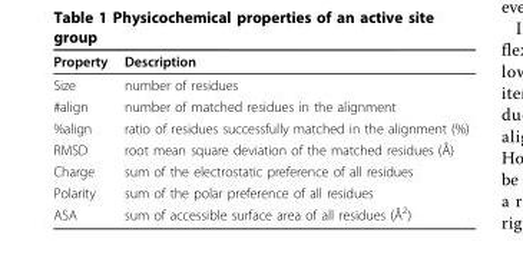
<table><thead><tr><td>Property</td><td>Description</td></tr></thead><tbody><tr><td>Size</td><td>number of residues</td></tr><tr><td>#align</td><td>number of matched residues in the alignment</td></tr><tr><td>%align</td><td>ratio of residues successfully matched in the alignment (%)</td></tr><tr><td>RMSD</td><td>root mean square deviation of the matched residues (Å)</td></tr><tr><td>Charge</td><td>sum of the electrostatic preference of all residues</td></tr><tr><td>Polarity</td><td>sum of the polar preference of all residues</td></tr><tr><td>ASA</td><td>sum of accessible surface area of all residues (Å<sup>2</sup>)</td></tr></tbody></table>